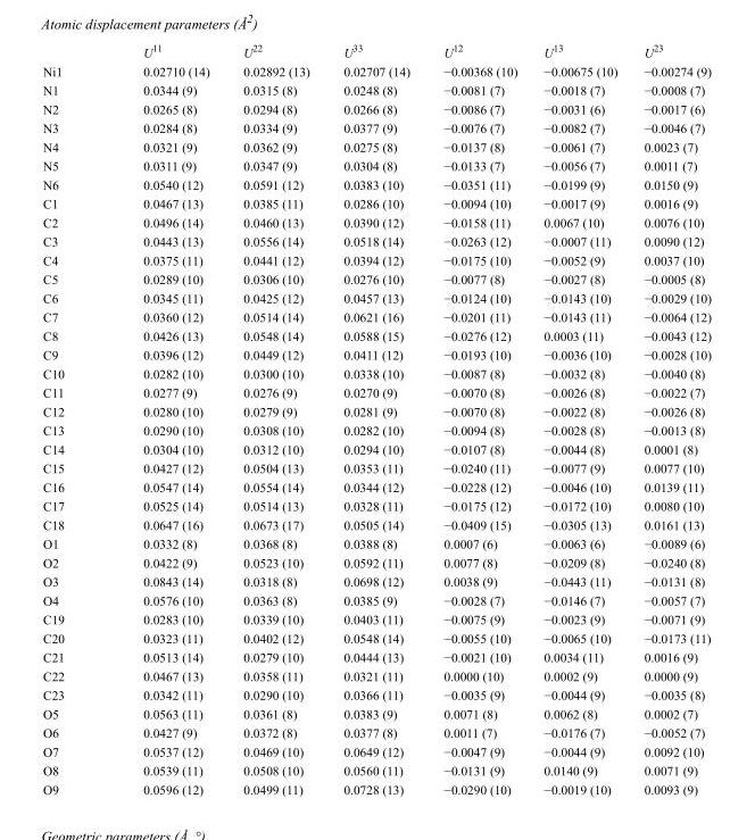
<table><thead><tr><td></td><td>U<sup>11</sup></td><td>U<sup>22</sup></td><td>U<sup>33</sup></td><td>U<sup>12</sup></td><td>U<sup>13</sup></td><td>U<sup>23</sup></td></tr></thead><tbody><tr><td>Ni1</td><td>0.02710 (14)</td><td>0.02892 (13)</td><td>0.02707 (14)</td><td>−0.00368 (10)</td><td>−0.00675 (10)</td><td>−0.00274 (9)</td></tr><tr><td>N1</td><td>0.0344 (9)</td><td>0.0315 (8)</td><td>0.0248 (8)</td><td>−0.0081 (7)</td><td>−0.0018 (7)</td><td>−0.0008 (7)</td></tr><tr><td>N2</td><td>0.0265 (8)</td><td>0.0294 (8)</td><td>0.0266 (8)</td><td>−0.0086 (7)</td><td>−0.0031 (6)</td><td>−0.0017 (6)</td></tr><tr><td>N3</td><td>0.0284 (8)</td><td>0.0334 (9)</td><td>0.0377 (9)</td><td>−0.0076 (7)</td><td>−0.0082 (7)</td><td>−0.0046 (7)</td></tr><tr><td>N4</td><td>0.0321 (9)</td><td>0.0362 (9)</td><td>0.0275 (8)</td><td>−0.0137 (8)</td><td>−0.0061 (7)</td><td>0.0023 (7)</td></tr><tr><td>N5</td><td>0.0311 (9)</td><td>0.0347 (9)</td><td>0.0304 (8)</td><td>−0.0133 (7)</td><td>−0.0056 (7)</td><td>0.0011 (7)</td></tr><tr><td>N6</td><td>0.0540 (12)</td><td>0.0591 (12)</td><td>0.0383 (10)</td><td>−0.0351 (11)</td><td>−0.0199 (9)</td><td>0.0150 (9)</td></tr><tr><td>C1</td><td>0.0467 (13)</td><td>0.0385 (11)</td><td>0.0286 (10)</td><td>−0.0094 (10)</td><td>−0.0017 (9)</td><td>0.0016 (9)</td></tr><tr><td>C2</td><td>0.0496 (14)</td><td>0.0460 (13)</td><td>0.0390 (12)</td><td>−0.0158 (11)</td><td>0.0067 (10)</td><td>0.0076 (10)</td></tr><tr><td>C3</td><td>0.0443 (13)</td><td>0.0556 (14)</td><td>0.0518 (14)</td><td>−0.0263 (12)</td><td>−0.0007 (11)</td><td>0.0090 (12)</td></tr><tr><td>C4</td><td>0.0375 (11)</td><td>0.0441 (12)</td><td>0.0394 (12)</td><td>−0.0175 (10)</td><td>−0.0052 (9)</td><td>0.0037 (10)</td></tr><tr><td>C5</td><td>0.0289 (10)</td><td>0.0306 (10)</td><td>0.0276 (10)</td><td>−0.0077 (8)</td><td>−0.0027 (8)</td><td>−0.0005 (8)</td></tr><tr><td>C6</td><td>0.0345 (11)</td><td>0.0425 (12)</td><td>0.0457 (13)</td><td>−0.0124 (10)</td><td>−0.0143 (10)</td><td>−0.0029 (10)</td></tr><tr><td>C7</td><td>0.0360 (12)</td><td>0.0514 (14)</td><td>0.0621 (16)</td><td>−0.0201 (11)</td><td>−0.0143 (11)</td><td>−0.0064 (12)</td></tr><tr><td>C8</td><td>0.0426 (13)</td><td>0.0548 (14)</td><td>0.0588 (15)</td><td>−0.0276 (12)</td><td>0.0003 (11)</td><td>−0.0043 (12)</td></tr><tr><td>C9</td><td>0.0396 (12)</td><td>0.0449 (12)</td><td>0.0411 (12)</td><td>−0.0193 (10)</td><td>−0.0036 (10)</td><td>−0.0028 (10)</td></tr><tr><td>C10</td><td>0.0282 (10)</td><td>0.0300 (10)</td><td>0.0338 (10)</td><td>−0.0087 (8)</td><td>−0.0032 (8)</td><td>−0.0040 (8)</td></tr><tr><td>C11</td><td>0.0277 (9)</td><td>0.0276 (9)</td><td>0.0270 (9)</td><td>−0.0070 (8)</td><td>−0.0026 (8)</td><td>−0.0022 (7)</td></tr><tr><td>C12</td><td>0.0280 (10)</td><td>0.0279 (9)</td><td>0.0281 (9)</td><td>−0.0070 (8)</td><td>−0.0022 (8)</td><td>−0.0026 (8)</td></tr><tr><td>C13</td><td>0.0290 (10)</td><td>0.0308 (10)</td><td>0.0282 (10)</td><td>−0.0094 (8)</td><td>−0.0028 (8)</td><td>−0.0013 (8)</td></tr><tr><td>C14</td><td>0.0304 (10)</td><td>0.0312 (10)</td><td>0.0294 (10)</td><td>−0.0107 (8)</td><td>−0.0044 (8)</td><td>0.0001 (8)</td></tr><tr><td>C15</td><td>0.0427 (12)</td><td>0.0504 (13)</td><td>0.0353 (11)</td><td>−0.0240 (11)</td><td>−0.0077 (9)</td><td>0.0077 (10)</td></tr><tr><td>C16</td><td>0.0547 (14)</td><td>0.0554 (14)</td><td>0.0344 (12)</td><td>−0.0228 (12)</td><td>−0.0046 (10)</td><td>0.0139 (11)</td></tr><tr><td>C17</td><td>0.0525 (14)</td><td>0.0514 (13)</td><td>0.0328 (11)</td><td>−0.0175 (12)</td><td>−0.0172 (10)</td><td>0.0080 (10)</td></tr><tr><td>C18</td><td>0.0647 (16)</td><td>0.0673 (17)</td><td>0.0505 (14)</td><td>−0.0409 (15)</td><td>−0.0305 (13)</td><td>0.0161 (13)</td></tr><tr><td>O1</td><td>0.0332 (8)</td><td>0.0368 (8)</td><td>0.0388 (8)</td><td>0.0007 (6)</td><td>−0.0063 (6)</td><td>−0.0089 (6)</td></tr><tr><td>O2</td><td>0.0422 (9)</td><td>0.0523 (10)</td><td>0.0592 (11)</td><td>0.0077 (8)</td><td>−0.0209 (8)</td><td>−0.0240 (8)</td></tr><tr><td>O3</td><td>0.0843 (14)</td><td>0.0318 (8)</td><td>0.0698 (12)</td><td>0.0038 (9)</td><td>−0.0443 (11)</td><td>−0.0131 (8)</td></tr><tr><td>O4</td><td>0.0576 (10)</td><td>0.0363 (8)</td><td>0.0385 (9)</td><td>−0.0028 (7)</td><td>−0.0146 (7)</td><td>−0.0057 (7)</td></tr><tr><td>C19</td><td>0.0283 (10)</td><td>0.0339 (10)</td><td>0.0403 (11)</td><td>−0.0075 (9)</td><td>−0.0023 (9)</td><td>−0.0071 (9)</td></tr><tr><td>C20</td><td>0.0323 (11)</td><td>0.0402 (12)</td><td>0.0548 (14)</td><td>−0.0055 (10)</td><td>−0.0065 (10)</td><td>−0.0173 (11)</td></tr><tr><td>C21</td><td>0.0513 (14)</td><td>0.0279 (10)</td><td>0.0444 (13)</td><td>−0.0021 (10)</td><td>0.0034 (11)</td><td>0.0016 (9)</td></tr><tr><td>C22</td><td>0.0467 (13)</td><td>0.0358 (11)</td><td>0.0321 (11)</td><td>0.0000 (10)</td><td>0.0002 (9)</td><td>0.0000 (9)</td></tr><tr><td>C23</td><td>0.0342 (11)</td><td>0.0290 (10)</td><td>0.0366 (11)</td><td>−0.0035 (9)</td><td>−0.0044 (9)</td><td>−0.0035 (8)</td></tr><tr><td>O5</td><td>0.0563 (11)</td><td>0.0361 (8)</td><td>0.0383 (9)</td><td>0.0071 (8)</td><td>0.0062 (8)</td><td>0.0002 (7)</td></tr><tr><td>O6</td><td>0.0427 (9)</td><td>0.0372 (8)</td><td>0.0377 (8)</td><td>0.0011 (7)</td><td>−0.0176 (7)</td><td>−0.0052 (7)</td></tr><tr><td>O7</td><td>0.0537 (12)</td><td>0.0469 (10)</td><td>0.0649 (12)</td><td>−0.0047 (9)</td><td>−0.0044 (9)</td><td>0.0092 (10)</td></tr><tr><td>O8</td><td>0.0539 (11)</td><td>0.0508 (10)</td><td>0.0560 (11)</td><td>−0.0131 (9)</td><td>0.0140 (9)</td><td>0.0071 (9)</td></tr><tr><td>O9</td><td>0.0596 (12)</td><td>0.0499 (11)</td><td>0.0728 (13)</td><td>−0.0290 (10)</td><td>−0.0019 (10)</td><td>0.0093 (9)</td></tr></tbody></table>